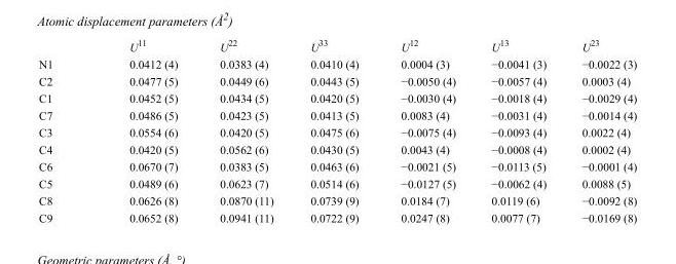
<table><thead><tr><td></td><td>U<sup>11</sup></td><td>U<sup>22</sup></td><td>U<sup>33</sup></td><td>U<sup>12</sup></td><td>U<sup>13</sup></td><td>U<sup>23</sup></td></tr></thead><tbody><tr><td>N1</td><td>0.0412 (4)</td><td>0.0383 (4)</td><td>0.0410 (4)</td><td>0.0004 (3)</td><td>−0.0041 (3)</td><td>−0.0022 (3)</td></tr><tr><td>C2</td><td>0.0477 (5)</td><td>0.0449 (6)</td><td>0.0443 (5)</td><td>−0.0050 (4)</td><td>−0.0057 (4)</td><td>0.0003 (4)</td></tr><tr><td>C1</td><td>0.0452 (5)</td><td>0.0434 (5)</td><td>0.0420 (5)</td><td>−0.0030 (4)</td><td>−0.0018 (4)</td><td>−0.0029 (4)</td></tr><tr><td>C7</td><td>0.0486 (5)</td><td>0.0423 (5)</td><td>0.0413 (5)</td><td>0.0083 (4)</td><td>−0.0031 (4)</td><td>−0.0014 (4)</td></tr><tr><td>C3</td><td>0.0554 (6)</td><td>0.0420 (5)</td><td>0.0475 (6)</td><td>−0.0075 (4)</td><td>−0.0093 (4)</td><td>0.0022 (4)</td></tr><tr><td>C4</td><td>0.0420 (5)</td><td>0.0562 (6)</td><td>0.0430 (5)</td><td>0.0043 (4)</td><td>−0.0008 (4)</td><td>0.0002 (4)</td></tr><tr><td>C6</td><td>0.0670 (7)</td><td>0.0383 (5)</td><td>0.0463 (6)</td><td>−0.0021 (5)</td><td>−0.0113 (5)</td><td>−0.0001 (4)</td></tr><tr><td>C5</td><td>0.0489 (6)</td><td>0.0623 (7)</td><td>0.0514 (6)</td><td>−0.0127 (5)</td><td>−0.0062 (4)</td><td>0.0088 (5)</td></tr><tr><td>C8</td><td>0.0626 (8)</td><td>0.0870 (11)</td><td>0.0739 (9)</td><td>0.0184 (7)</td><td>0.0119 (6)</td><td>−0.0092 (8)</td></tr><tr><td>C9</td><td>0.0652 (8)</td><td>0.0941 (11)</td><td>0.0722 (9)</td><td>0.0247 (8)</td><td>0.0077 (7)</td><td>−0.0169 (8)</td></tr></tbody></table>